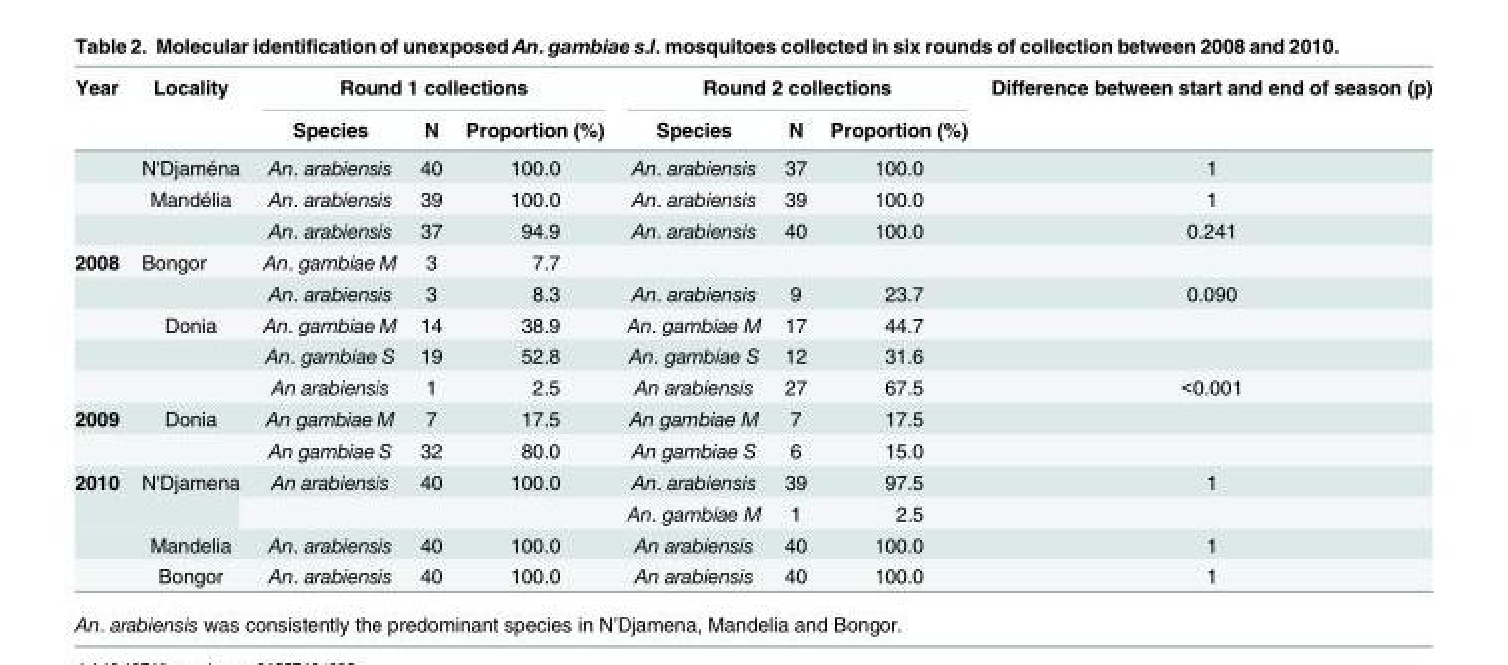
<table><thead><tr><td rowspan="2">Year</td><td rowspan="2">Locality</td><td colspan="3">Round 1 collections</td><td colspan="3">Round 2 collections</td><td rowspan="2">Difference between start and end of season (p)</td></tr><tr><td>Species</td><td>N</td><td>Proportion (%)</td><td>Species</td><td>N</td><td>Proportion (%)</td></tr></thead><tbody><tr><td></td><td>N&#x27;Djaména</td><td>An. arabiensis</td><td>40</td><td>100.0</td><td>An. arabiensis</td><td>37</td><td>100.0</td><td>1</td></tr><tr><td></td><td>Mandélia</td><td>An. arabiensis</td><td>39</td><td>100.0</td><td>An. arabiensis</td><td>39</td><td>100.0</td><td>1</td></tr><tr><td></td><td></td><td>An. arabiensis</td><td>37</td><td>94.9</td><td>An. arabiensis</td><td>40</td><td>100.0</td><td>0.241</td></tr><tr><td rowspan="5">2008</td><td>Bongor</td><td>An. gambiae M</td><td>3</td><td>7.7</td><td></td><td></td><td></td><td></td></tr><tr><td></td><td>An. arabiensis</td><td>3</td><td>8.3</td><td>An. arabiensis</td><td>9</td><td>23.7</td><td>0.090</td></tr><tr><td>Donia</td><td>An. gambiae M</td><td>14</td><td>38.9</td><td>An. gambiae M</td><td>17</td><td>44.7</td><td></td></tr><tr><td></td><td>An. gambiae S</td><td>19</td><td>52.8</td><td>An. gambiae S</td><td>12</td><td>31.6</td><td></td></tr><tr><td></td><td>An arabiensis</td><td>1</td><td>2.5</td><td>An arabiensis</td><td>27</td><td>67.5</td><td>&lt;0.001</td></tr><tr><td rowspan="2">2009</td><td>Donia</td><td>An gambiae M</td><td>7</td><td>17.5</td><td>An gambiae M</td><td>7</td><td>17.5</td><td></td></tr><tr><td></td><td>An gambiae S</td><td>32</td><td>80.0</td><td>An gambiae S</td><td>6</td><td>15.0</td><td></td></tr><tr><td rowspan="4">2010</td><td rowspan="2">N&#x27;Djamena</td><td>An arabiensis</td><td>40</td><td>100.0</td><td>An. arabiensis</td><td>39</td><td>97.5</td><td>1</td></tr><tr><td></td><td></td><td></td><td>An. gambiae M</td><td>1</td><td>2.5</td><td></td></tr><tr><td>Mandelia</td><td>An. arabiensis</td><td>40</td><td>100.0</td><td>An arabiensis</td><td>40</td><td>100.0</td><td>1</td></tr><tr><td>Bongor</td><td>An. arabiensis</td><td>40</td><td>100.0</td><td>An arabiensis</td><td>40</td><td>100.0</td><td>1</td></tr></tbody></table>